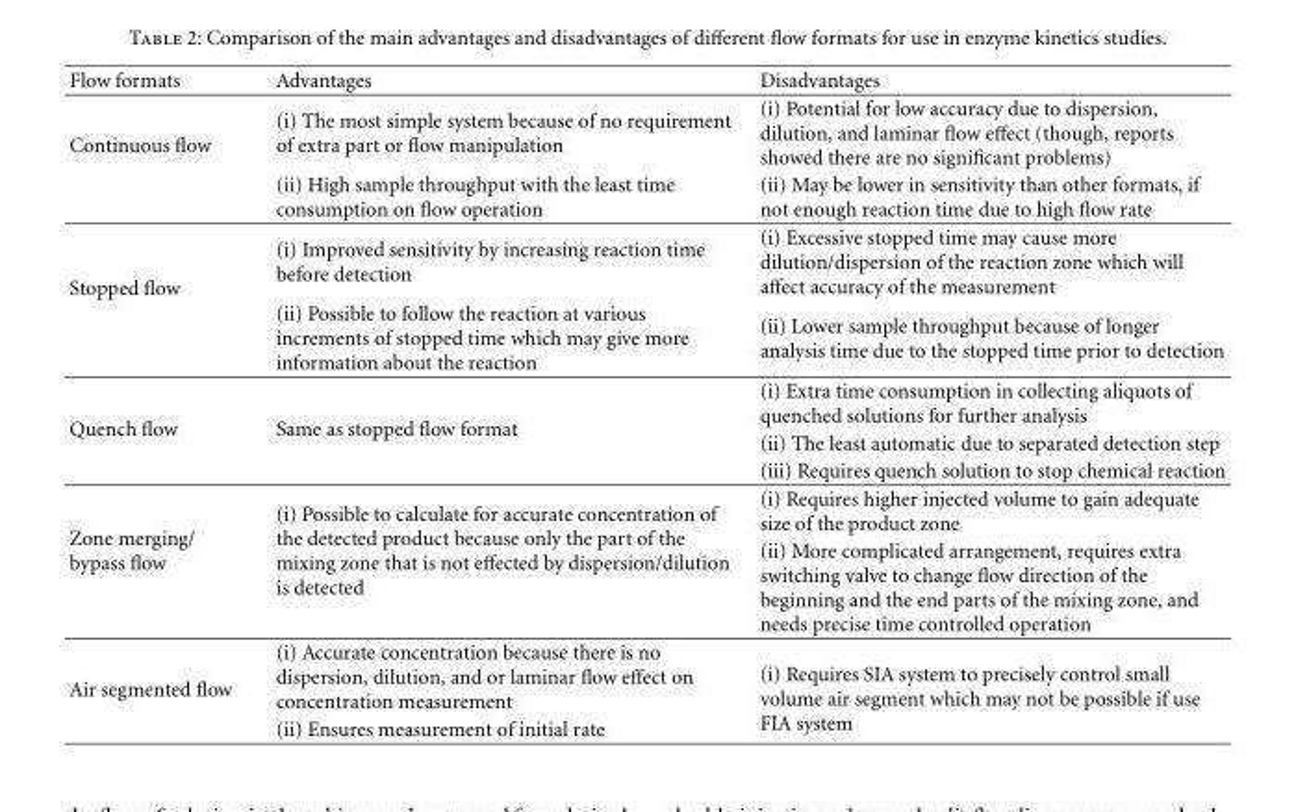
<table><thead><tr><td>Flow formats</td><td>Advantages</td><td>Disadvantages</td></tr></thead><tbody><tr><td rowspan="2">Continuous flow</td><td>(i) The most simple system because of no requirement of extra part or flow manipulation</td><td>(i) Potential for low accuracy due to dispersion, dilution, and laminar flow effect (though, reports showed there are no significant problems)</td></tr><tr><td>(ii) High sample throughput with the least time consumption on flow operation</td><td>(ii) May be lower in sensitivity than other formats, if not enough reaction time due to high flow rate</td></tr><tr><td rowspan="2">Stopped flow</td><td>(i) Improved sensitivity by increasing reaction time before detection</td><td>(i) Excessive stopped time may cause more dilution/dispersion of the reaction zone which will affect accuracy of the measurement</td></tr><tr><td>(ii) Possible to follow the reaction at various increments of stopped time which may give more information about the reaction</td><td>(ii) Lower sample throughput because of longer analysis time due to the stopped time prior to detection</td></tr><tr><td rowspan="3">Quench flow</td><td rowspan="3">Same as stopped flow format</td><td>(i) Extra time consumption in collecting aliquots of quenched solutions for further analysis</td></tr><tr><td>(ii) The least automatic due to separated detection step</td></tr><tr><td>(iii) Requires quench solution to stop chemical reaction</td></tr><tr><td rowspan="2">Zone merging/ bypass flow</td><td rowspan="2">(i) Possible to calculate for accurate concentration of the detected product because only the part of the mixing zone that is not effected by dispersion/dilution is detected</td><td>(i) Requires higher injected volume to gain adequate size of the product zone</td></tr><tr><td>(ii) More complicated arrangement, requires extra switching valve to change flow direction of the beginning and the end parts of the mixing zone, and needs precise time controlled operation</td></tr><tr><td rowspan="2">Air segmented flow</td><td>(i) Accurate concentration because there is no dispersion, dilution, and or laminar flow effect on concentration measurement</td><td rowspan="2">(i) Requires SIA system to precisely control small volume air segment which may not be possible if use FIA system</td></tr><tr><td>(ii) Ensures measurement of initial rate</td></tr></tbody></table>